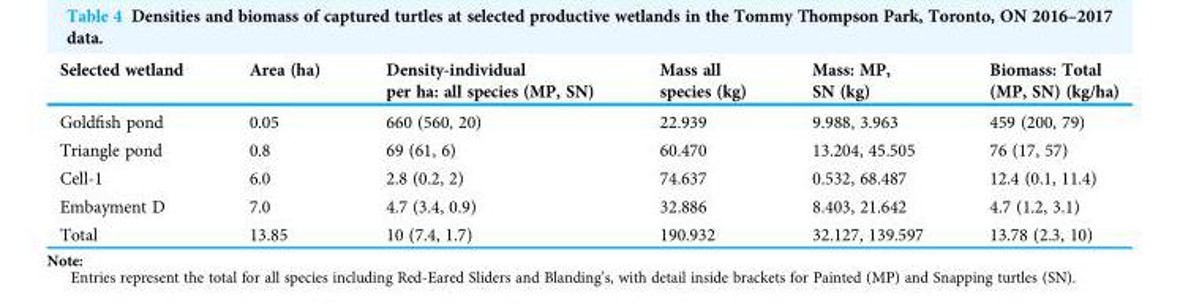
<table><thead><tr><td>Selected wetland</td><td>Area (ha)</td><td>Density-individual per ha: all species (MP, SN)</td><td>Mass all species (kg)</td><td>Mass: MP, SN (kg)</td><td>Biomass: Total (MP, SN) (kg/ha)</td></tr></thead><tbody><tr><td>Goldfish pond</td><td>0.05</td><td>660 (560, 20)</td><td>22.939</td><td>9.988, 3.963</td><td>459 (200, 79)</td></tr><tr><td>Triangle pond</td><td>0.8</td><td>69 (61, 6)</td><td>60.470</td><td>13.204, 45.505</td><td>76 (17, 57)</td></tr><tr><td>Cell-1</td><td>6.0</td><td>2.8 (0.2, 2)</td><td>74.637</td><td>0.532, 68.487</td><td>12.4 (0.1, 11.4)</td></tr><tr><td>Embayment D</td><td>7.0</td><td>4.7 (3.4, 0.9)</td><td>32.886</td><td>8.403, 21.642</td><td>4.7 (1.2, 3.1)</td></tr><tr><td>Total</td><td>13.85</td><td>10 (7.4, 1.7)</td><td>190.932</td><td>32.127, 139.597</td><td>13.78 (2.3, 10)</td></tr></tbody></table>